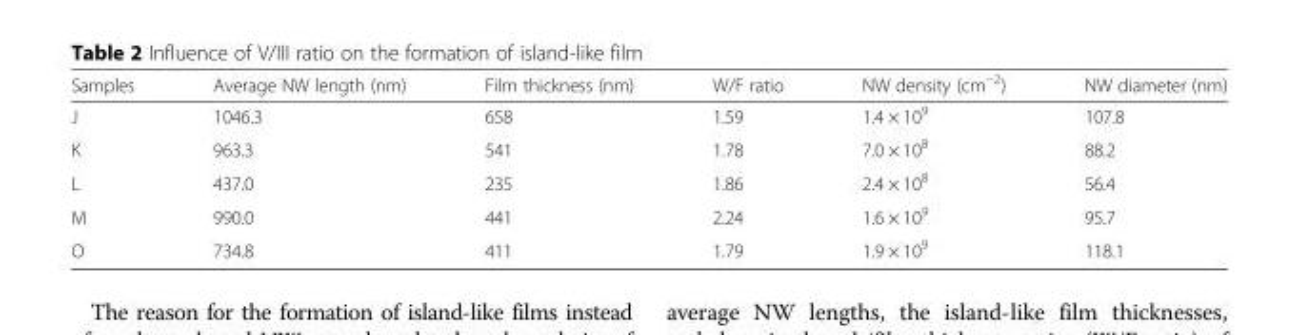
<table><thead><tr><td>Samples</td><td>Average NW length (nm)</td><td>Film thickness (nm)</td><td>W/F ratio</td><td>NW density (cm<sup>−2</sup>)</td><td>NW diameter (nm)</td></tr></thead><tbody><tr><td>J</td><td>1046.3</td><td>658</td><td>1.59</td><td>1.4 × 10<sup>9</sup></td><td>107.8</td></tr><tr><td>K</td><td>963.3</td><td>541</td><td>1.78</td><td>7.0 × 10<sup>8</sup></td><td>88.2</td></tr><tr><td>L</td><td>437.0</td><td>235</td><td>1.86</td><td>2.4 × 10<sup>8</sup></td><td>56.4</td></tr><tr><td>M</td><td>990.0</td><td>441</td><td>2.24</td><td>1.6 × 10<sup>9</sup></td><td>95.7</td></tr><tr><td>O</td><td>734.8</td><td>411</td><td>1.79</td><td>1.9 × 10<sup>9</sup></td><td>118.1</td></tr></tbody></table>